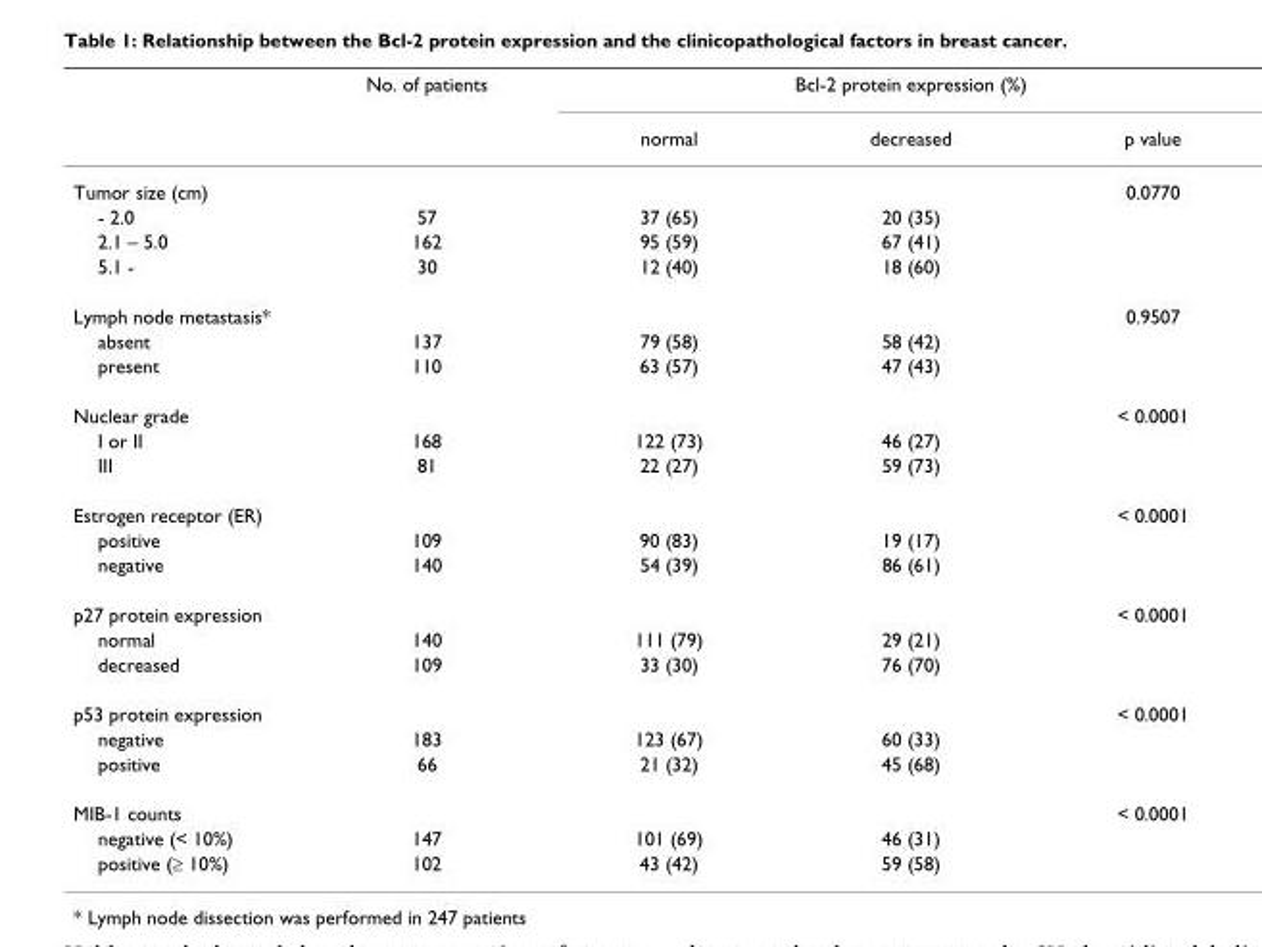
<table><thead><tr><td rowspan="2"></td><td rowspan="2">No. of patients</td><td colspan="3">Bcl-2 protein expression (%)</td></tr><tr><td>normal</td><td>decreased</td><td>p value</td></tr></thead><tbody><tr><td>Tumor size (cm)</td><td></td><td></td><td></td><td>0.0770</td></tr><tr><td>- 2.0</td><td>57</td><td>37 (65)</td><td>20 (35)</td><td></td></tr><tr><td>2.1 – 5.0</td><td>162</td><td>95 (59)</td><td>67 (41)</td><td></td></tr><tr><td>5.1 -</td><td>30</td><td>12 (40)</td><td>18 (60)</td><td></td></tr><tr><td>Lymph node metastasis*</td><td></td><td></td><td></td><td>0.9507</td></tr><tr><td>absent</td><td>137</td><td>79 (58)</td><td>58 (42)</td><td></td></tr><tr><td>present</td><td>110</td><td>63 (57)</td><td>47 (43)</td><td></td></tr><tr><td>Nuclear grade</td><td></td><td></td><td></td><td>&lt; 0.0001</td></tr><tr><td>I or II</td><td>168</td><td>122 (73)</td><td>46 (27)</td><td></td></tr><tr><td>III</td><td>81</td><td>22 (27)</td><td>59 (73)</td><td></td></tr><tr><td>Estrogen receptor (ER)</td><td></td><td></td><td></td><td>&lt; 0.0001</td></tr><tr><td>positive</td><td>109</td><td>90 (83)</td><td>19 (17)</td><td></td></tr><tr><td>negative</td><td>140</td><td>54 (39)</td><td>86 (61)</td><td></td></tr><tr><td>p27 protein expression</td><td></td><td></td><td></td><td>&lt; 0.0001</td></tr><tr><td>normal</td><td>140</td><td>111 (79)</td><td>29 (21)</td><td></td></tr><tr><td>decreased</td><td>109</td><td>33 (30)</td><td>76 (70)</td><td></td></tr><tr><td>p53 protein expression</td><td></td><td></td><td></td><td>&lt; 0.0001</td></tr><tr><td>negative</td><td>183</td><td>123 (67)</td><td>60 (33)</td><td></td></tr><tr><td>positive</td><td>66</td><td>21 (32)</td><td>45 (68)</td><td></td></tr><tr><td>MIB-1 counts</td><td></td><td></td><td></td><td>&lt; 0.0001</td></tr><tr><td>negative (&lt; 10%)</td><td>147</td><td>101 (69)</td><td>46 (31)</td><td></td></tr><tr><td>positive (≥ 10%)</td><td>102</td><td>43 (42)</td><td>59 (58)</td><td></td></tr></tbody></table>